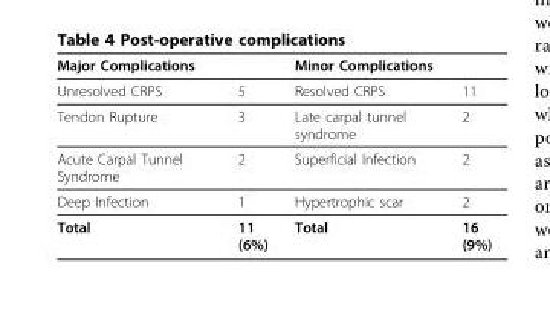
<table><thead><tr><td>Major Complications</td><td></td><td>Minor Complications</td><td></td></tr></thead><tbody><tr><td>Unresolved CRPS</td><td>5</td><td>Resolved CRPS</td><td>11</td></tr><tr><td>Tendon Rupture</td><td>3</td><td>Late carpal tunnel syndrome</td><td>2</td></tr><tr><td>Acute Carpal Tunnel Syndrome</td><td>2</td><td>Superficial Infection</td><td>2</td></tr><tr><td>Deep Infection</td><td>1</td><td>Hypertrophic scar</td><td>2</td></tr><tr><td>Total</td><td>11 (6%)</td><td>Total</td><td>16 (9%)</td></tr></tbody></table>